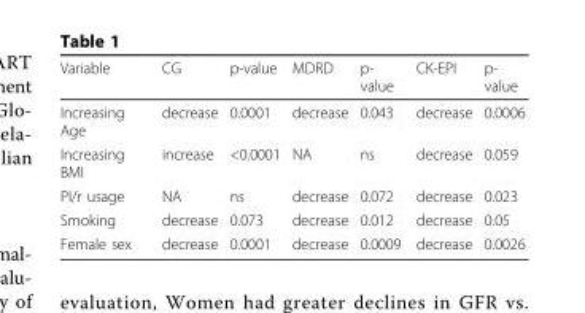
<table><thead><tr><td>Variable</td><td>CG</td><td>p-value</td><td>MDRD</td><td>p- value</td><td>CK-EPI</td><td>p- value</td></tr></thead><tbody><tr><td>Increasing Age</td><td>decrease</td><td>0.0001</td><td>decrease</td><td>0.043</td><td>decrease</td><td>0.0006</td></tr><tr><td>Increasing BMI</td><td>increase</td><td>&lt;0.0001</td><td>NA</td><td>ns</td><td>decrease</td><td>0.059</td></tr><tr><td>PI/r usage</td><td>NA</td><td>ns</td><td>decrease</td><td>0.072</td><td>decrease</td><td>0.023</td></tr><tr><td>Smoking</td><td>decrease</td><td>0.073</td><td>decrease</td><td>0.012</td><td>decrease</td><td>0.05</td></tr><tr><td>Female sex</td><td>decrease</td><td>0.0001</td><td>decrease</td><td>0.0009</td><td>decrease</td><td>0.0026</td></tr></tbody></table>